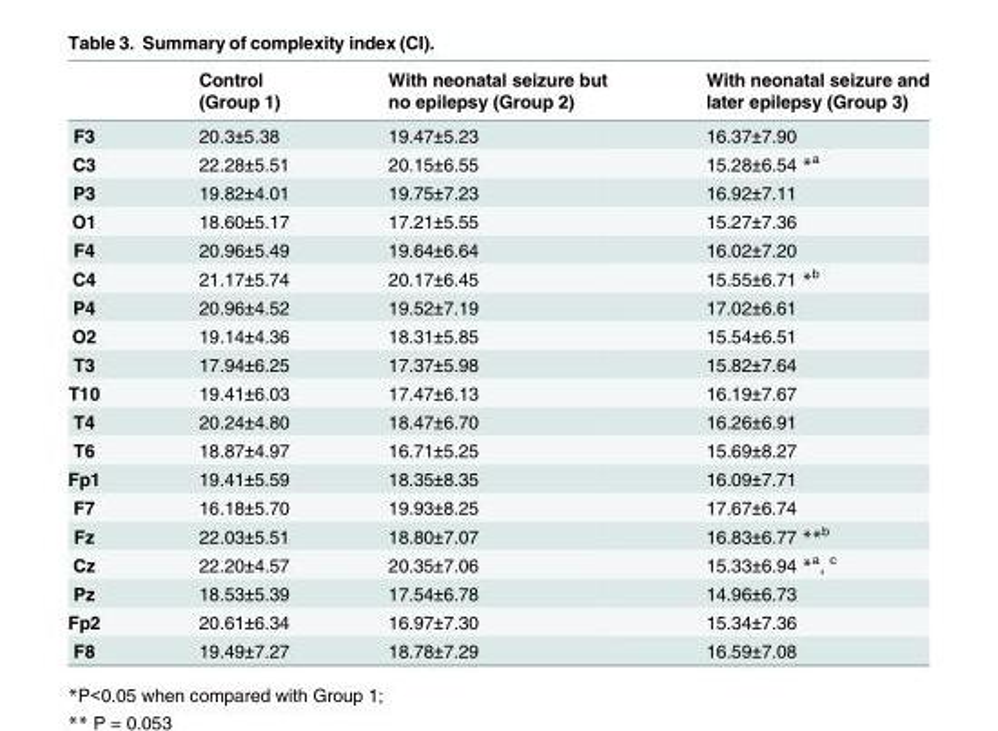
<table><thead><tr><td rowspan="2"></td><td rowspan="2">Control (Group 1)</td><td rowspan="2">With neonatal seizure but no epilepsy (Group 2)</td><td rowspan="2">With neonatal seizure and later epilepsy (Group 3)</td></tr><tr></tr></thead><tbody><tr><td>F3</td><td>20.3±5.38</td><td>19.47±5.23</td><td>16.37±7.90</td></tr><tr><td>C3</td><td>22.28±5.51</td><td>20.15±6.55</td><td>15.28±6.54 *<sup>a</sup></td></tr><tr><td>P3</td><td>19.82±4.01</td><td>19.75±7.23</td><td>16.92±7.11</td></tr><tr><td>O1</td><td>18.60±5.17</td><td>17.21±5.55</td><td>15.27±7.36</td></tr><tr><td>F4</td><td>20.96±5.49</td><td>19.64±6.64</td><td>16.02±7.20</td></tr><tr><td>C4</td><td>21.17±5.74</td><td>20.17±6.45</td><td>15.55±6.71 *<sup>b</sup></td></tr><tr><td>P4</td><td>20.96±4.52</td><td>19.52±7.19</td><td>17.02±6.61</td></tr><tr><td>O2</td><td>19.14±4.36</td><td>18.31±5.85</td><td>15.54±6.51</td></tr><tr><td>T3</td><td>17.94±6.25</td><td>17.37±5.98</td><td>15.82±7.64</td></tr><tr><td>T10</td><td>19.41±6.03</td><td>17.47±6.13</td><td>16.19±7.67</td></tr><tr><td>T4</td><td>20.24±4.80</td><td>18.47±6.70</td><td>16.26±6.91</td></tr><tr><td>T6</td><td>18.87±4.97</td><td>16.71±5.25</td><td>15.69±8.27</td></tr><tr><td>Fp1</td><td>19.41±5.59</td><td>18.35±8.35</td><td>16.09±7.71</td></tr><tr><td>F7</td><td>16.18±5.70</td><td>19.93±8.25</td><td>17.67±6.74</td></tr><tr><td>Fz</td><td>22.03±5.51</td><td>18.80±7.07</td><td>16.83±6.77 **<sup>b</sup></td></tr><tr><td>Cz</td><td>22.20±4.57</td><td>20.35±7.06</td><td>15.33±6.94 *<sup>a</sup>, <sup>c</sup></td></tr><tr><td>Pz</td><td>18.53±5.39</td><td>17.54±6.78</td><td>14.96±6.73</td></tr><tr><td>Fp2</td><td>20.61±6.34</td><td>16.97±7.30</td><td>15.34±7.36</td></tr><tr><td>F8</td><td>19.49±7.27</td><td>18.78±7.29</td><td>16.59±7.08</td></tr></tbody></table>